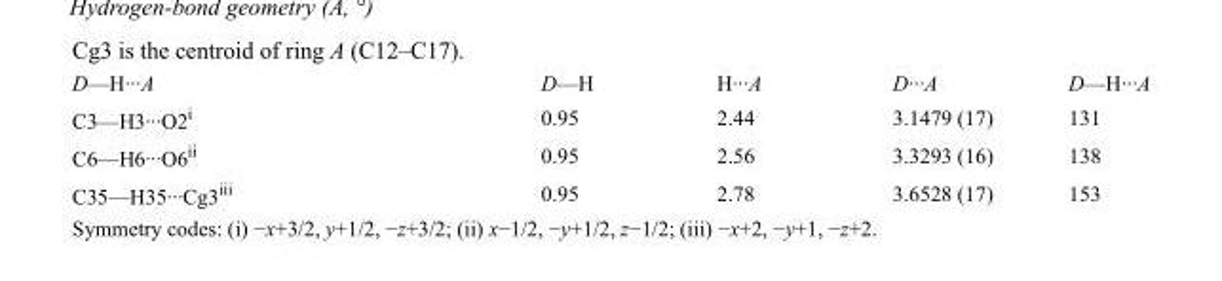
<table><tbody><tr><td>D—H···A</td><td>D—H</td><td>H···A</td><td>D···A</td><td>D—H···A</td></tr><tr><td>C3—H3···O2<sup>i</sup></td><td>0.95</td><td>2.44</td><td>3.1479 (17)</td><td>131</td></tr><tr><td>C6—H6···O6<sup>ii</sup></td><td>0.95</td><td>2.56</td><td>3.3293 (16)</td><td>138</td></tr><tr><td>C35—H35···Cg3<sup>iii</sup></td><td>0.95</td><td>2.78</td><td>3.6528 (17)</td><td>153</td></tr></tbody></table>